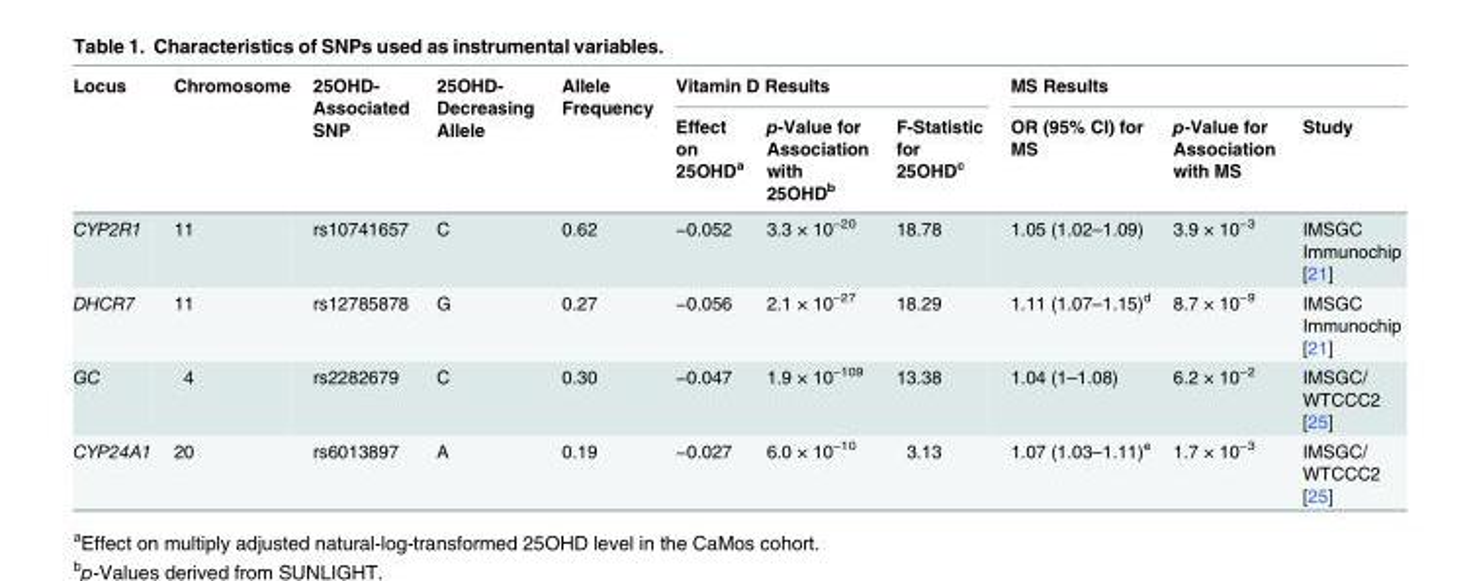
<table><thead><tr><td rowspan="2">Locus</td><td rowspan="2">Chromosome</td><td rowspan="2">25OHD- Associated SNP</td><td rowspan="2">25OHD- Decreasing Allele</td><td rowspan="2">Allele Frequency</td><td colspan="3">Vitamin D Results</td><td colspan="3">MS Results</td></tr><tr><td>Effect on 25OHD<sup>a</sup></td><td>p-Value for Association with 25OHD<sup>b</sup></td><td>F-Statistic for 25OHD<sup>c</sup></td><td>OR (95% CI) for MS</td><td>p-Value for Association with MS</td><td>Study</td></tr></thead><tbody><tr><td>CYP2R1</td><td>11</td><td>rs10741657</td><td>C</td><td>0.62</td><td>−0.052</td><td>3.3 × 10<sup>−20</sup></td><td>18.78</td><td>1.05 (1.02–1.09)</td><td>3.9 × 10<sup>−3</sup></td><td>IMSGC Immunochip [21]</td></tr><tr><td>DHCR7</td><td>11</td><td>rs12785878</td><td>G</td><td>0.27</td><td>−0.056</td><td>2.1 × 10<sup>−27</sup></td><td>18.29</td><td>1.11 (1.07–1.15)<sup>d</sup></td><td>8.7 × 10<sup>−9</sup></td><td>IMSGC Immunochip [21]</td></tr><tr><td>GC</td><td>4</td><td>rs2282679</td><td>C</td><td>0.30</td><td>−0.047</td><td>1.9 × 10<sup>−109</sup></td><td>13.38</td><td>1.04 (1–1.08)</td><td>6.2 × 10<sup>−2</sup></td><td>IMSGC/ WTCCC2 [25]</td></tr><tr><td>CYP24A1</td><td>20</td><td>rs6013897</td><td>A</td><td>0.19</td><td>−0.027</td><td>6.0 × 10<sup>−10</sup></td><td>3.13</td><td>1.07 (1.03–1.11)<sup>e</sup></td><td>1.7 × 10<sup>−3</sup></td><td>IMSGC/ WTCCC2 [25]</td></tr></tbody></table>